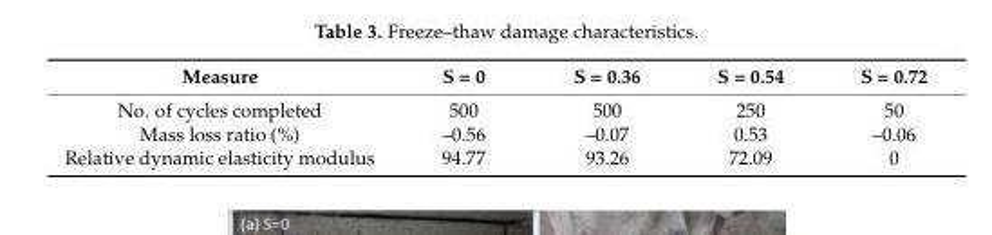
<table><thead><tr><td>Measure</td><td>S = 0</td><td>S = 0.36</td><td>S = 0.54</td><td>S = 0.72</td></tr></thead><tbody><tr><td>No. of cycles completed</td><td>500</td><td>500</td><td>250</td><td>50</td></tr><tr><td>Mass loss ratio (%)</td><td>–0.56</td><td>–0.07</td><td>0.53</td><td>–0.06</td></tr><tr><td>Relative dynamic elasticity modulus</td><td>94.77</td><td>93.26</td><td>72.09</td><td>0</td></tr></tbody></table>